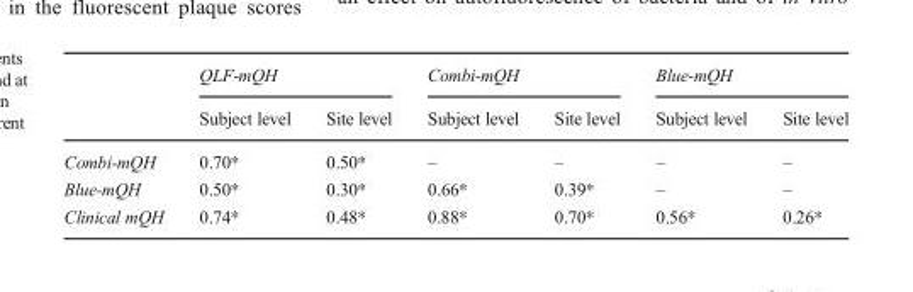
<table><thead><tr><td rowspan="2"></td><td colspan="2">QLF-mQH</td><td colspan="2">Combi-mQH</td><td colspan="2">Blue-mQH</td></tr><tr><td>Subject level</td><td>Site level</td><td>Subject level</td><td>Site level</td><td>Subject level</td><td>Site level</td></tr></thead><tbody><tr><td>Combi-mQH</td><td>0.70*</td><td>0.50*</td><td>–</td><td>–</td><td>–</td><td>–</td></tr><tr><td>Blue-mQH</td><td>0.50*</td><td>0.30*</td><td>0.66*</td><td>0.39*</td><td>–</td><td>–</td></tr><tr><td>Clinical mQH</td><td>0.74*</td><td>0.48*</td><td>0.88*</td><td>0.70*</td><td>0.56*</td><td>0.26*</td></tr></tbody></table>